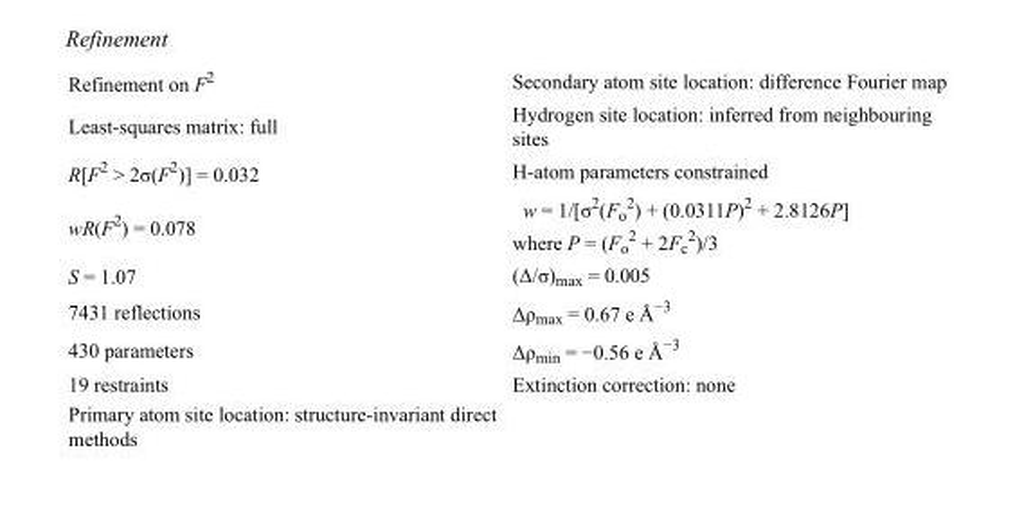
<table><tbody><tr><td>Refinement on F<sup>2</sup></td><td>Secondary atom site location: difference Fourier map</td></tr><tr><td>Least-squares matrix: full</td><td>Hydrogen site location: inferred from neighbouring sites</td></tr><tr><td>R[F<sup>2</sup> &gt; 2σ(F<sup>2</sup>)] = 0.032</td><td>H-atom parameters constrained</td></tr><tr><td>wR(F<sup>2</sup>) = 0.078</td><td>w = 1/[σ<sup>2</sup>(F<sub>o</sub> <sup>2</sup>) + (0.0311P)<sup>2</sup> + 2.8126P] where P = (F<sub>o</sub> <sup>2</sup> + 2F<sub>c</sub> <sup>2</sup>)/3</td></tr><tr><td>S = 1.07</td><td>(Δ/σ)<sub>max</sub> = 0.005</td></tr><tr><td>7431 reflections</td><td>Δρ<sub>max</sub> = 0.67 e Å<sup>−3</sup></td></tr><tr><td>430 parameters</td><td>Δρ<sub>min</sub> = −0.56 e Å<sup>−3</sup></td></tr><tr><td>19 restraints</td><td>Extinction correction: none</td></tr><tr><td>Primary atom site location: structure-invariant direct methods</td><td></td></tr></tbody></table>